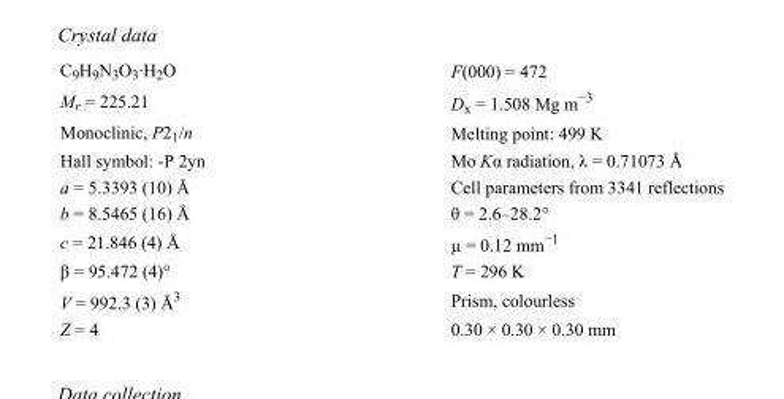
<table><tbody><tr><td>C<sub>9</sub>H<sub>9</sub>N<sub>3</sub>O<sub>3</sub>·H<sub>2</sub>O</td><td>F(000) = 472</td></tr><tr><td>M<sub>r</sub> = 225.21</td><td>D<sub>x</sub> = 1.508 Mg m<sup>−3</sup></td></tr><tr><td>Monoclinic, P2<sub>1</sub>/n</td><td>Melting point: 499 K</td></tr><tr><td>Hall symbol: -P 2yn</td><td>Mo Kα radiation, λ = 0.71073 Å</td></tr><tr><td>a = 5.3393 (10) Å</td><td>Cell parameters from 3341 reflections</td></tr><tr><td>b = 8.5465 (16) Å</td><td>θ = 2.6–28.2°</td></tr><tr><td>c = 21.846 (4) Å</td><td>µ = 0.12 mm<sup>−1</sup></td></tr><tr><td>β = 95.472 (4)°</td><td>T = 296 K</td></tr><tr><td>V = 992.3 (3) Å<sup>3</sup></td><td>Prism, colourless</td></tr><tr><td>Z = 4</td><td>0.30 × 0.30 × 0.30 mm</td></tr></tbody></table>